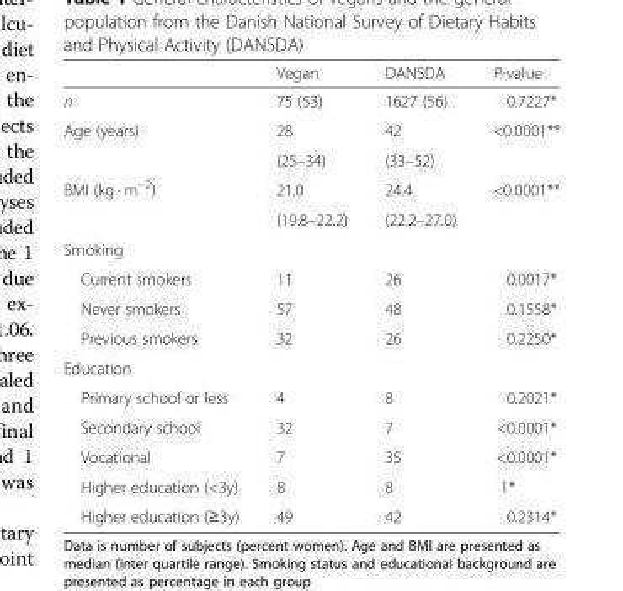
<table><thead><tr><td></td><td>Vegan</td><td>DANSDA</td><td>P-value</td></tr></thead><tbody><tr><td>n</td><td>75 (53)</td><td>1627 (56)</td><td>0.7227*</td></tr><tr><td rowspan="2">Age (years)</td><td>28</td><td>42</td><td rowspan="2">&lt;0.0001**</td></tr><tr><td>(25–34)</td><td>(33–52)</td></tr><tr><td rowspan="2">BMI (kg · m<sup>−2</sup>)</td><td>21.0</td><td>24.4</td><td rowspan="2">&lt;0.0001**</td></tr><tr><td>(19.8–22.2)</td><td>(22.2–27.0)</td></tr><tr><td colspan="4">Smoking</td></tr><tr><td>Current smokers</td><td>11</td><td>26</td><td>0.0017*</td></tr><tr><td>Never smokers</td><td>57</td><td>48</td><td>0.1558*</td></tr><tr><td>Previous smokers</td><td>32</td><td>26</td><td>0.2250*</td></tr><tr><td colspan="4">Education</td></tr><tr><td>Primary school or less</td><td>4</td><td>8</td><td>0.2021*</td></tr><tr><td>Secondary school</td><td>32</td><td>7</td><td>&lt;0.0001*</td></tr><tr><td>Vocational</td><td>7</td><td>35</td><td>&lt;0.0001*</td></tr><tr><td>Higher education (&lt;3y)</td><td>8</td><td>8</td><td>1*</td></tr><tr><td>Higher education (≥3y)</td><td>49</td><td>42</td><td>0.2314*</td></tr></tbody></table>